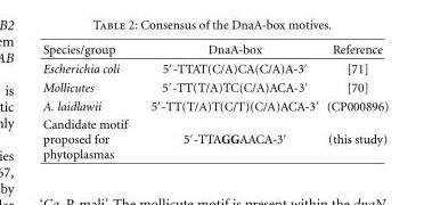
<table><thead><tr><td>Species/group</td><td>DnaA-box</td><td>Reference</td></tr></thead><tbody><tr><td>Escherichia coli</td><td>5′-TTAT(C/A)CA(C/A)A-3′</td><td>[71]</td></tr><tr><td>Mollicutes</td><td>5′-TT(T/A)TC(C/A)ACA-3′</td><td>[70]</td></tr><tr><td>A. laidlawii</td><td>5′-TT(T/A)T(C/T)(C/A)ACA-3′</td><td>(CP000896)</td></tr><tr><td>Candidate motif proposed for phytoplasmas</td><td>5′-TTAGGAACA-3′</td><td>(this study)</td></tr></tbody></table>